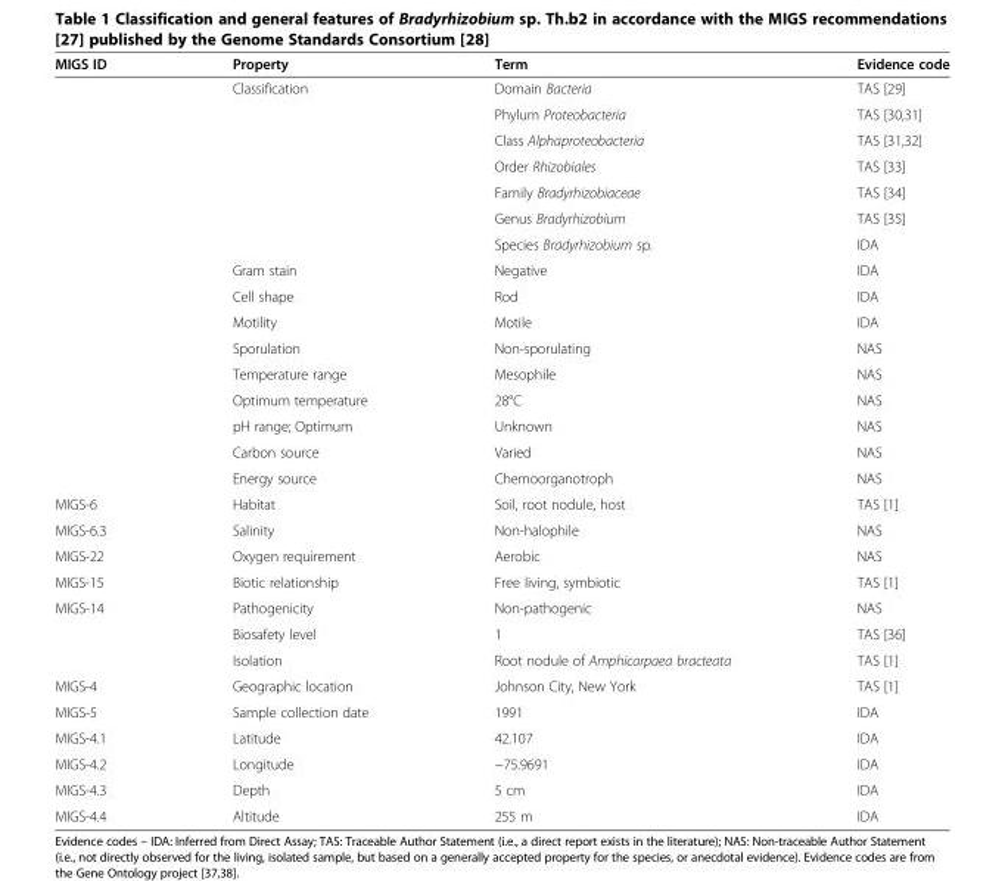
<table><thead><tr><td>MIGS ID</td><td>Property</td><td>Term</td><td>Evidence code</td></tr></thead><tbody><tr><td></td><td>Classification</td><td>Domain Bacteria</td><td>TAS [29]</td></tr><tr><td></td><td></td><td>Phylum Proteobacteria</td><td>TAS [30,31]</td></tr><tr><td></td><td></td><td>Class Alphaproteobacteria</td><td>TAS [31,32]</td></tr><tr><td></td><td></td><td>Order Rhizobiales</td><td>TAS [33]</td></tr><tr><td></td><td></td><td>Family Bradyrhizobiaceae</td><td>TAS [34]</td></tr><tr><td></td><td></td><td>Genus Bradyrhizobium</td><td>TAS [35]</td></tr><tr><td></td><td></td><td>Species Bradyrhizobium sp.</td><td>IDA</td></tr><tr><td></td><td>Gram stain</td><td>Negative</td><td>IDA</td></tr><tr><td></td><td>Cell shape</td><td>Rod</td><td>IDA</td></tr><tr><td></td><td>Motility</td><td>Motile</td><td>IDA</td></tr><tr><td></td><td>Sporulation</td><td>Non-sporulating</td><td>NAS</td></tr><tr><td></td><td>Temperature range</td><td>Mesophile</td><td>NAS</td></tr><tr><td></td><td>Optimum temperature</td><td>28°C</td><td>NAS</td></tr><tr><td></td><td>pH range; Optimum</td><td>Unknown</td><td>NAS</td></tr><tr><td></td><td>Carbon source</td><td>Varied</td><td>NAS</td></tr><tr><td></td><td>Energy source</td><td>Chemoorganotroph</td><td>NAS</td></tr><tr><td>MIGS-6</td><td>Habitat</td><td>Soil, root nodule, host</td><td>TAS [1]</td></tr><tr><td>MIGS-6.3</td><td>Salinity</td><td>Non-halophile</td><td>NAS</td></tr><tr><td>MIGS-22</td><td>Oxygen requirement</td><td>Aerobic</td><td>NAS</td></tr><tr><td>MIGS-15</td><td>Biotic relationship</td><td>Free living, symbiotic</td><td>TAS [1]</td></tr><tr><td rowspan="3">MIGS-14</td><td>Pathogenicity</td><td>Non-pathogenic</td><td>NAS</td></tr><tr><td>Biosafety level</td><td>1</td><td>TAS [36]</td></tr><tr><td>Isolation</td><td>Root nodule of Amphicarpaea bracteata</td><td>TAS [1]</td></tr><tr><td>MIGS-4</td><td>Geographic location</td><td>Johnson City, New York</td><td>TAS [1]</td></tr><tr><td>MIGS-5</td><td>Sample collection date</td><td>1991</td><td>IDA</td></tr><tr><td>MIGS-4.1</td><td>Latitude</td><td>42.107</td><td>IDA</td></tr><tr><td>MIGS-4.2</td><td>Longitude</td><td>−75.9691</td><td>IDA</td></tr><tr><td>MIGS-4.3</td><td>Depth</td><td>5 cm</td><td>IDA</td></tr><tr><td>MIGS-4.4</td><td>Altitude</td><td>255 m</td><td>IDA</td></tr></tbody></table>